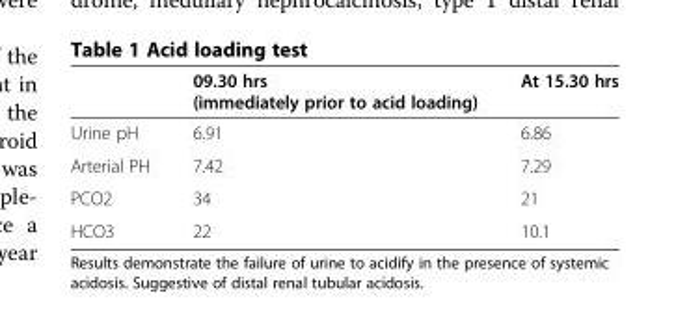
<table><thead><tr><td></td><td>09.30 hrs (immediately prior to acid loading)</td><td>At 15.30 hrs</td></tr></thead><tbody><tr><td>Urine pH</td><td>6.91</td><td>6.86</td></tr><tr><td>Arterial PH</td><td>7.42</td><td>7.29</td></tr><tr><td>PCO2</td><td>34</td><td>21</td></tr><tr><td>HCO3</td><td>22</td><td>10.1</td></tr></tbody></table>